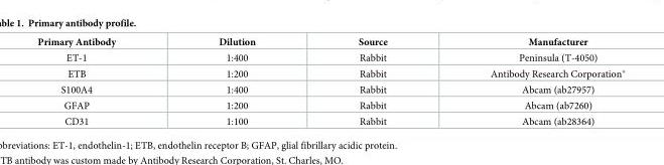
<table><thead><tr><td>Primary Antibody</td><td>Dilution</td><td>Source</td><td>Manufacturer</td></tr></thead><tbody><tr><td>ET-1</td><td>1:400</td><td>Rabbit</td><td>Peninsula (T-4050)</td></tr><tr><td>ETB</td><td>1:200</td><td>Rabbit</td><td>Antibody Research Corporation*</td></tr><tr><td>S100A4</td><td>1:400</td><td>Rabbit</td><td>Abcam (ab27957)</td></tr><tr><td>GFAP</td><td>1:200</td><td>Rabbit</td><td>Abcam (ab7260)</td></tr><tr><td>CD31</td><td>1:100</td><td>Rabbit</td><td>Abcam (ab28364)</td></tr></tbody></table>